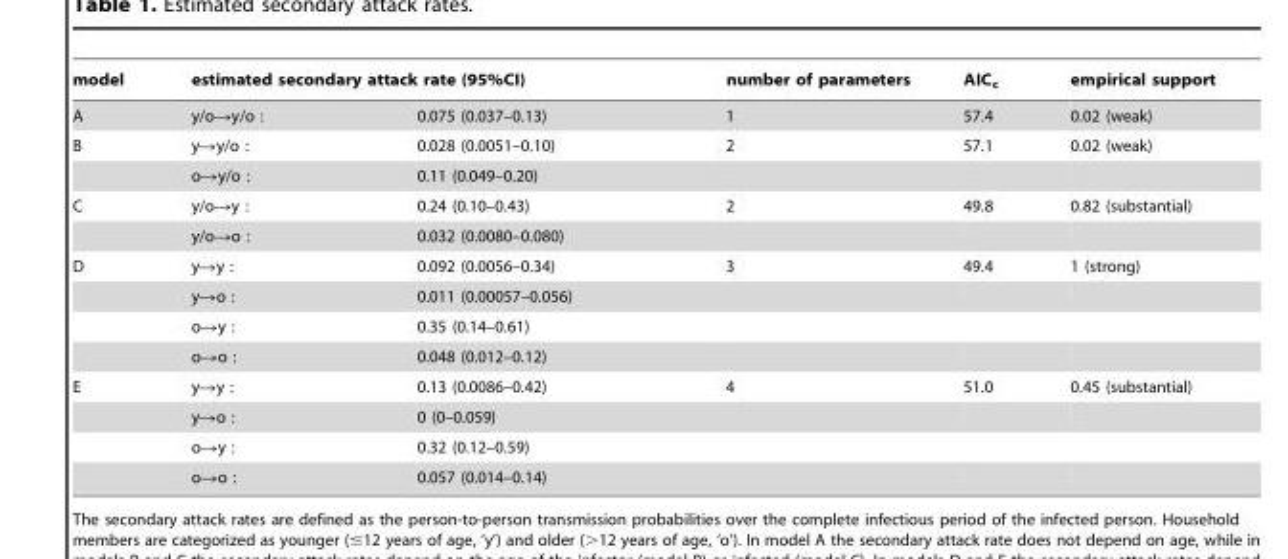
<table><thead><tr><td rowspan="2">model A</td><td colspan="2">estimated secondary attack rate (95%CI)</td><td rowspan="2">number of parameters 1</td><td rowspan="2">AIC<sub>c</sub> 57.4</td><td rowspan="2">empirical support 0.02 (weak)</td></tr><tr><td>y/o→y/o :</td><td>0.075 (0.037–0.13)</td></tr></thead><tbody><tr><td rowspan="2">B</td><td>y→y/o :</td><td>0.028 (0.0051–0.10)</td><td>2</td><td>57.1</td><td>0.02 (weak)</td></tr><tr><td>o→y/o :</td><td>0.11 (0.049–0.20)</td><td></td><td></td><td></td></tr><tr><td rowspan="2">C</td><td>y/o→y :</td><td>0.24 (0.10–0.43)</td><td>2</td><td>49.8</td><td>0.82 (substantial)</td></tr><tr><td>y/o→o :</td><td>0.032 (0.0080–0.080)</td><td></td><td></td><td></td></tr><tr><td rowspan="4">D</td><td>y→y :</td><td>0.092 (0.0056–0.34)</td><td>3</td><td>49.4</td><td>1 (strong)</td></tr><tr><td>y→o :</td><td>0.011 (0.00057–0.056)</td><td></td><td></td><td></td></tr><tr><td>o→y :</td><td>0.35 (0.14–0.61)</td><td></td><td></td><td></td></tr><tr><td>o→o :</td><td>0.048 (0.012–0.12)</td><td></td><td></td><td></td></tr><tr><td rowspan="4">E</td><td>y→y :</td><td>0.13 (0.0086–0.42)</td><td>4</td><td>51.0</td><td>0.45 (substantial)</td></tr><tr><td>y→o :</td><td>0 (0–0.059)</td><td></td><td></td><td></td></tr><tr><td>o→y :</td><td>0.32 (0.12–0.59)</td><td></td><td></td><td></td></tr><tr><td>o→o :</td><td>0.057 (0.014–0.14)</td><td></td><td></td><td></td></tr></tbody></table>